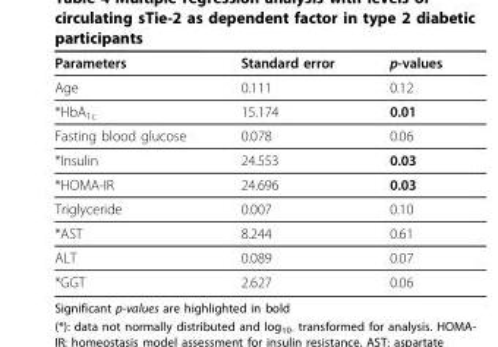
<table><thead><tr><td>Parameters</td><td>Standard error</td><td>p-values</td></tr></thead><tbody><tr><td>Age</td><td>0.111</td><td>0.12</td></tr><tr><td>*HbA<sub>1c</sub></td><td>15.174</td><td>0.01</td></tr><tr><td>Fasting blood glucose</td><td>0.078</td><td>0.06</td></tr><tr><td>*Insulin</td><td>24.553</td><td>0.03</td></tr><tr><td>*HOMA-IR</td><td>24.696</td><td>0.03</td></tr><tr><td>Triglyceride</td><td>0.007</td><td>0.10</td></tr><tr><td>*AST</td><td>8.244</td><td>0.61</td></tr><tr><td>ALT</td><td>0.089</td><td>0.07</td></tr><tr><td>*GGT</td><td>2.627</td><td>0.06</td></tr></tbody></table>